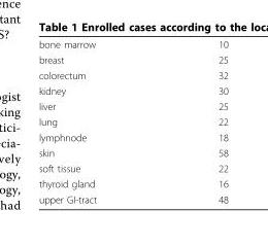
<table><tbody><tr><td>bone marrow</td><td>10</td></tr><tr><td>breast</td><td>25</td></tr><tr><td>colorectum</td><td>32</td></tr><tr><td>kidney</td><td>30</td></tr><tr><td>liver</td><td>25</td></tr><tr><td>lung</td><td>22</td></tr><tr><td>lymphnode</td><td>18</td></tr><tr><td>skin</td><td>58</td></tr><tr><td>soft tissue</td><td>22</td></tr><tr><td>thyroid gland</td><td>16</td></tr><tr><td>upper GI-tract</td><td>48</td></tr></tbody></table>